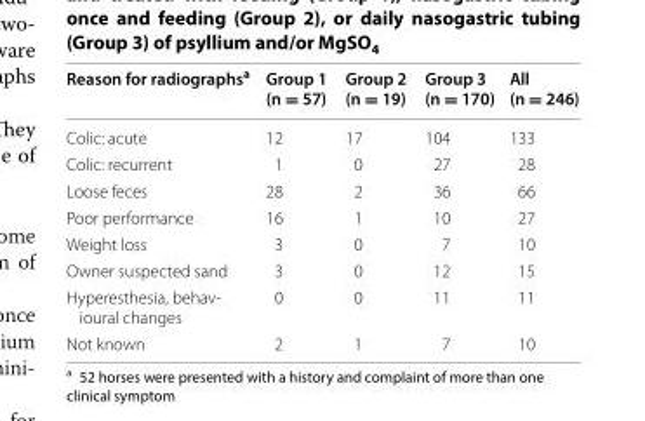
<table><thead><tr><td>Reason for radiographs<sup>a</sup></td><td>Group 1 (n = 57)</td><td>Group 2 (n = 19)</td><td>Group 3 (n = 170)</td><td>All (n = 246)</td></tr></thead><tbody><tr><td>Colic: acute</td><td>12</td><td>17</td><td>104</td><td>133</td></tr><tr><td>Colic: recurrent</td><td>1</td><td>0</td><td>27</td><td>28</td></tr><tr><td>Loose feces</td><td>28</td><td>2</td><td>36</td><td>66</td></tr><tr><td>Poor performance</td><td>16</td><td>1</td><td>10</td><td>27</td></tr><tr><td>Weight loss</td><td>3</td><td>0</td><td>7</td><td>10</td></tr><tr><td>Owner suspected sand</td><td>3</td><td>0</td><td>12</td><td>15</td></tr><tr><td>Hyperesthesia, behav- ioural changes</td><td>0</td><td>0</td><td>11</td><td>11</td></tr><tr><td>Not known</td><td>2</td><td>1</td><td>7</td><td>10</td></tr></tbody></table>